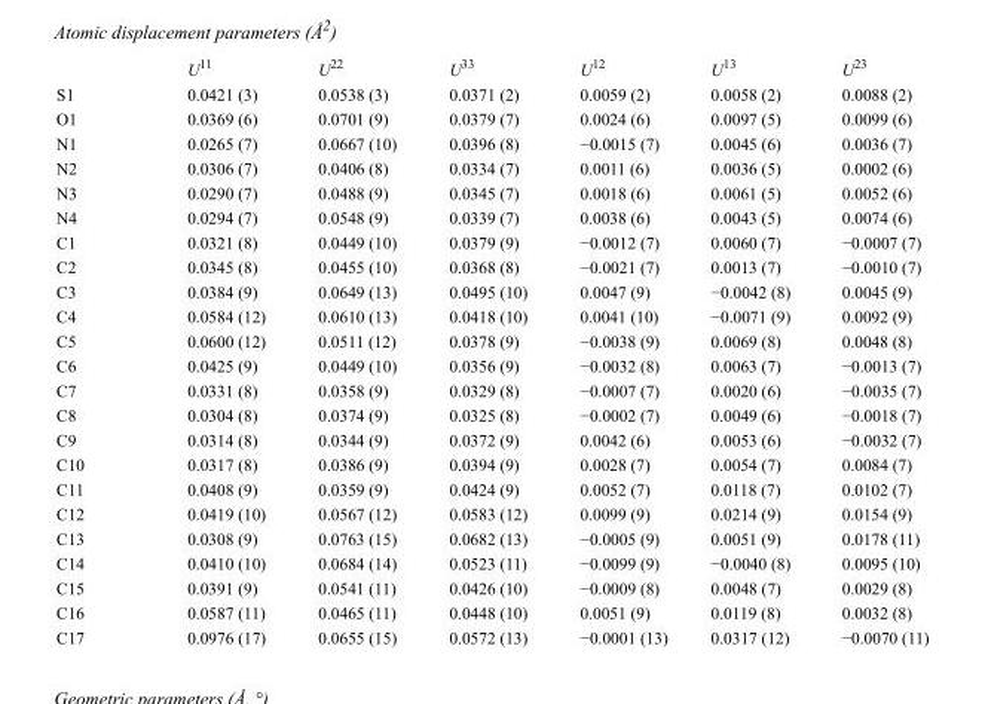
<table><thead><tr><td></td><td>U<sup>11</sup></td><td>U<sup>22</sup></td><td>U<sup>33</sup></td><td>U<sup>12</sup></td><td>U<sup>13</sup></td><td>U<sup>23</sup></td></tr></thead><tbody><tr><td>S1</td><td>0.0421 (3)</td><td>0.0538 (3)</td><td>0.0371 (2)</td><td>0.0059 (2)</td><td>0.0058 (2)</td><td>0.0088 (2)</td></tr><tr><td>O1</td><td>0.0369 (6)</td><td>0.0701 (9)</td><td>0.0379 (7)</td><td>0.0024 (6)</td><td>0.0097 (5)</td><td>0.0099 (6)</td></tr><tr><td>N1</td><td>0.0265 (7)</td><td>0.0667 (10)</td><td>0.0396 (8)</td><td>−0.0015 (7)</td><td>0.0045 (6)</td><td>0.0036 (7)</td></tr><tr><td>N2</td><td>0.0306 (7)</td><td>0.0406 (8)</td><td>0.0334 (7)</td><td>0.0011 (6)</td><td>0.0036 (5)</td><td>0.0002 (6)</td></tr><tr><td>N3</td><td>0.0290 (7)</td><td>0.0488 (9)</td><td>0.0345 (7)</td><td>0.0018 (6)</td><td>0.0061 (5)</td><td>0.0052 (6)</td></tr><tr><td>N4</td><td>0.0294 (7)</td><td>0.0548 (9)</td><td>0.0339 (7)</td><td>0.0038 (6)</td><td>0.0043 (5)</td><td>0.0074 (6)</td></tr><tr><td>C1</td><td>0.0321 (8)</td><td>0.0449 (10)</td><td>0.0379 (9)</td><td>−0.0012 (7)</td><td>0.0060 (7)</td><td>−0.0007 (7)</td></tr><tr><td>C2</td><td>0.0345 (8)</td><td>0.0455 (10)</td><td>0.0368 (8)</td><td>−0.0021 (7)</td><td>0.0013 (7)</td><td>−0.0010 (7)</td></tr><tr><td>C3</td><td>0.0384 (9)</td><td>0.0649 (13)</td><td>0.0495 (10)</td><td>0.0047 (9)</td><td>−0.0042 (8)</td><td>0.0045 (9)</td></tr><tr><td>C4</td><td>0.0584 (12)</td><td>0.0610 (13)</td><td>0.0418 (10)</td><td>0.0041 (10)</td><td>−0.0071 (9)</td><td>0.0092 (9)</td></tr><tr><td>C5</td><td>0.0600 (12)</td><td>0.0511 (12)</td><td>0.0378 (9)</td><td>−0.0038 (9)</td><td>0.0069 (8)</td><td>0.0048 (8)</td></tr><tr><td>C6</td><td>0.0425 (9)</td><td>0.0449 (10)</td><td>0.0356 (9)</td><td>−0.0032 (8)</td><td>0.0063 (7)</td><td>−0.0013 (7)</td></tr><tr><td>C7</td><td>0.0331 (8)</td><td>0.0358 (9)</td><td>0.0329 (8)</td><td>−0.0007 (7)</td><td>0.0020 (6)</td><td>−0.0035 (7)</td></tr><tr><td>C8</td><td>0.0304 (8)</td><td>0.0374 (9)</td><td>0.0325 (8)</td><td>−0.0002 (7)</td><td>0.0049 (6)</td><td>−0.0018 (7)</td></tr><tr><td>C9</td><td>0.0314 (8)</td><td>0.0344 (9)</td><td>0.0372 (9)</td><td>0.0042 (6)</td><td>0.0053 (6)</td><td>−0.0032 (7)</td></tr><tr><td>C10</td><td>0.0317 (8)</td><td>0.0386 (9)</td><td>0.0394 (9)</td><td>0.0028 (7)</td><td>0.0054 (7)</td><td>0.0084 (7)</td></tr><tr><td>C11</td><td>0.0408 (9)</td><td>0.0359 (9)</td><td>0.0424 (9)</td><td>0.0052 (7)</td><td>0.0118 (7)</td><td>0.0102 (7)</td></tr><tr><td>C12</td><td>0.0419 (10)</td><td>0.0567 (12)</td><td>0.0583 (12)</td><td>0.0099 (9)</td><td>0.0214 (9)</td><td>0.0154 (9)</td></tr><tr><td>C13</td><td>0.0308 (9)</td><td>0.0763 (15)</td><td>0.0682 (13)</td><td>−0.0005 (9)</td><td>0.0051 (9)</td><td>0.0178 (11)</td></tr><tr><td>C14</td><td>0.0410 (10)</td><td>0.0684 (14)</td><td>0.0523 (11)</td><td>−0.0099 (9)</td><td>−0.0040 (8)</td><td>0.0095 (10)</td></tr><tr><td>C15</td><td>0.0391 (9)</td><td>0.0541 (11)</td><td>0.0426 (10)</td><td>−0.0009 (8)</td><td>0.0048 (7)</td><td>0.0029 (8)</td></tr><tr><td>C16</td><td>0.0587 (11)</td><td>0.0465 (11)</td><td>0.0448 (10)</td><td>0.0051 (9)</td><td>0.0119 (8)</td><td>0.0032 (8)</td></tr><tr><td>C17</td><td>0.0976 (17)</td><td>0.0655 (15)</td><td>0.0572 (13)</td><td>−0.0001 (13)</td><td>0.0317 (12)</td><td>−0.0070 (11)</td></tr></tbody></table>